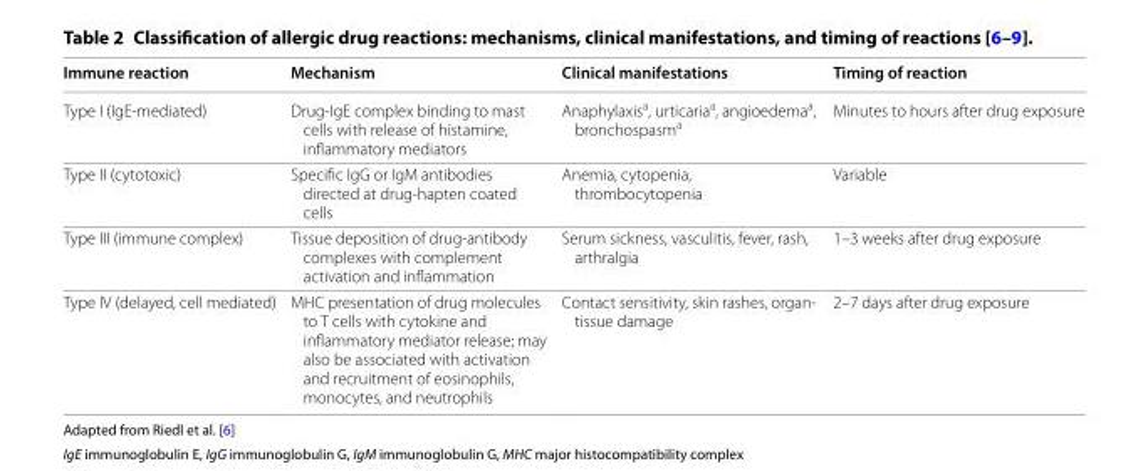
<table><thead><tr><td>Immune reaction</td><td>Mechanism</td><td>Clinical manifestations</td><td>Timing of reaction</td></tr></thead><tbody><tr><td>Type I (IgE‑mediated)</td><td>Drug‑IgE complex binding to mast cells with release of histamine, inflammatory mediators</td><td>Anaphylaxis<sup>a</sup>, urticaria<sup>a</sup>, angioedema<sup>a</sup>, bronchospasm<sup>a</sup></td><td>Minutes to hours after drug exposure</td></tr><tr><td>Type II (cytotoxic)</td><td>Specific IgG or IgM antibodies directed at drug‑hapten coated cells</td><td>Anemia, cytopenia, thrombocytopenia</td><td>Variable</td></tr><tr><td>Type III (immune complex)</td><td>Tissue deposition of drug‑antibody complexes with complement activation and inflammation</td><td>Serum sickness, vasculitis, fever, rash, arthralgia</td><td>1–3 weeks after drug exposure</td></tr><tr><td>Type IV (delayed, cell mediated)</td><td>MHC presentation of drug molecules to T cells with cytokine and inflammatory mediator release; may also be associated with activation and recruitment of eosinophils, monocytes, and neutrophils</td><td>Contact sensitivity, skin rashes, organ‑ tissue damage</td><td>2–7 days after drug exposure</td></tr></tbody></table>